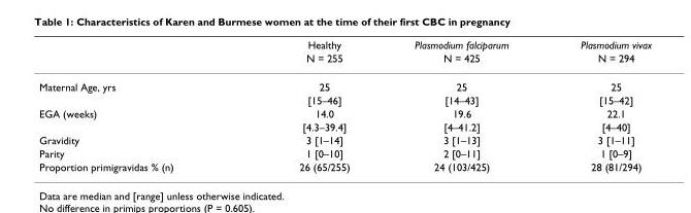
<table><thead><tr><td rowspan="2"></td><td rowspan="2">Healthy N = 255</td><td rowspan="2">Plasmodium falciparum N = 425</td><td rowspan="2">Plasmodium vivax N = 294</td></tr><tr></tr></thead><tbody><tr><td rowspan="2">Maternal Age, yrs</td><td>25</td><td>25</td><td>25</td></tr><tr><td>[15–46]</td><td>[14–43]</td><td>[15–42]</td></tr><tr><td rowspan="2">EGA (weeks)</td><td>14.0</td><td>19.6</td><td>22.1</td></tr><tr><td>[4.3–39.4]</td><td>[4–41.2]</td><td>[4–40]</td></tr><tr><td>Gravidity</td><td>3 [1–14]</td><td>3 [1–13]</td><td>3 [1–11]</td></tr><tr><td>Parity</td><td>1 [0–10]</td><td>2 [0–11]</td><td>1 [0–9]</td></tr><tr><td>Proportion primigravidas % (n)</td><td>26 (65/255)</td><td>24 (103/425)</td><td>28 (81/294)</td></tr></tbody></table>